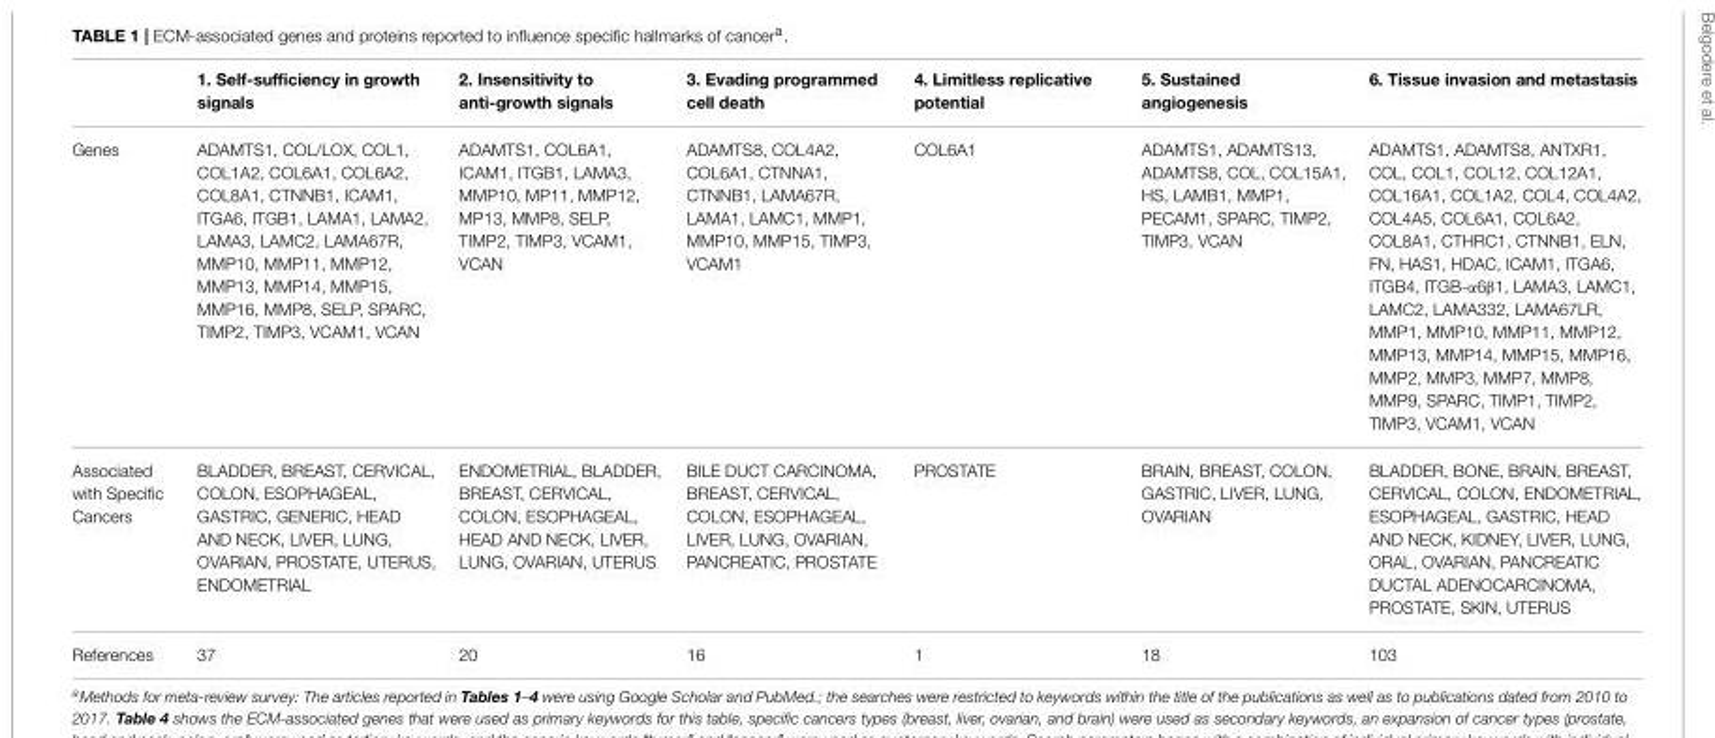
<table><thead><tr><td></td><td>1. Self-sufficiency in growth signals</td><td>2. Insensitivity to anti-growth signals</td><td>3. Evading programmed cell death</td><td>4. Limitless replicative potential</td><td>5. Sustained angiogenesis</td><td>6. Tissue invasion and metastasis</td></tr></thead><tbody><tr><td>Genes</td><td>ADAMTS1, COL/LOX, COL1, COL1A2, COL6A1, COL6A2, COL8A1, CTNNB1, ICAM1, ITGA6, ITGB1, LAMA1, LAMA2, LAMA3, LAMC2, LAMA67R, MMP10, MMP11, MMP12, MMP13, MMP14, MMP15, MMP16, MMP8, SELP, SPARC, TIMP2, TIMP3, VCAM1, VCAN</td><td>ADAMTS1, COL6A1, ICAM1, ITGB1, LAMA3, MMP10, MP11, MMP12, MP13, MMP8, SELP, TIMP2, TIMP3, VCAM1, VCAN</td><td>ADAMTS8, COL4A2, COL6A1, CTNNA1, CTNNB1, LAMA67R, LAMA1, LAMC1, MMP1, MMP10, MMP15, TIMP3, VCAM1</td><td>COL6A1</td><td>ADAMTS1, ADAMTS13, ADAMTS8, COL, COL15A1, HS, LAMB1, MMP1, PECAM1, SPARC, TIMP2, TIMP3, VCAN</td><td>ADAMTS1, ADAMTS8, ANTXR1, COL, COL1, COL12, COL12A1, COL16A1, COL1A2, COL4, COL4A2, COL4A5, COL6A1, COL6A2, COL8A1, CTHRC1, CTNNB1, ELN, FN, HAS1, HDAC, ICAM1, ITGA6, ITGB4, ITGB-α6β1, LAMA3, LAMC1, LAMC2, LAMA332, LAMA67LR, MMP1, MMP10, MMP11, MMP12, MMP13, MMP14, MMP15, MMP16, MMP2, MMP3, MMP7, MMP8, MMP9, SPARC, TIMP1, TIMP2, TIMP3, VCAM1, VCAN</td></tr><tr><td>Associated with Specific Cancers</td><td>BLADDER, BREAST, CERVICAL, COLON, ESOPHAGEAL, GASTRIC, GENERIC, HEAD AND NECK, LIVER, LUNG, OVARIAN, PROSTATE, UTERUS, ENDOMETRIAL</td><td>ENDOMETRIAL, BLADDER, BREAST, CERVICAL, COLON, ESOPHAGEAL, HEAD AND NECK, LIVER, LUNG, OVARIAN, UTERUS</td><td>BILE DUCT CARCINOMA, BREAST, CERVICAL, COLON, ESOPHAGEAL, LIVER, LUNG, OVARIAN, PANCREATIC, PROSTATE</td><td>PROSTATE</td><td>BRAIN, BREAST, COLON, GASTRIC, LIVER, LUNG, OVARIAN</td><td>BLADDER, BONE, BRAIN, BREAST, CERVICAL, COLON, ENDOMETRIAL, ESOPHAGEAL, GASTRIC, HEAD AND NECK, KIDNEY, LIVER, LUNG, ORAL, OVARIAN, PANCREATIC DUCTAL ADENOCARCINOMA, PROSTATE, SKIN, UTERUS</td></tr><tr><td>References</td><td>37</td><td>20</td><td>16</td><td>1</td><td>18</td><td>103</td></tr></tbody></table>